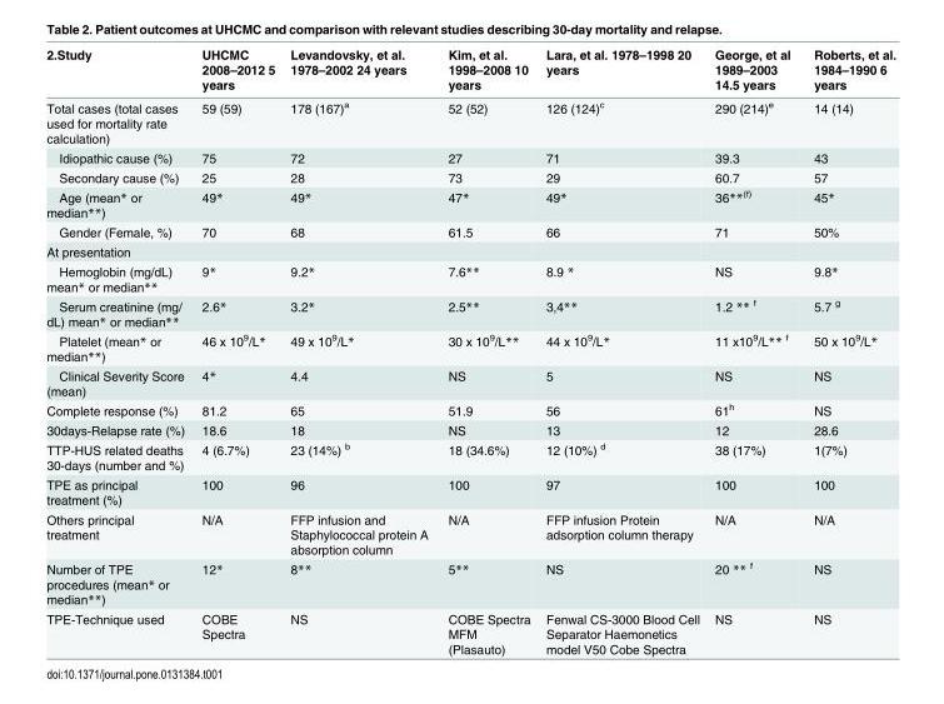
<table><thead><tr><td>2.Study</td><td>UHCMC 2008–2012 5 years</td><td>Levandovsky, et al. 1978–2002 24 years</td><td>Kim, et al. 1998–2008 10 years</td><td>Lara, et al. 1978–1998 20 years</td><td>George, et al 1989–2003 14.5 years</td><td>Roberts, et al. 1984–1990 6 years</td></tr></thead><tbody><tr><td>Total cases (total cases used for mortality rate calculation)</td><td>59 (59)</td><td>178 (167)<sup>a</sup></td><td>52 (52)</td><td>126 (124)<sup>c</sup></td><td>290 (214)<sup>e</sup></td><td>14 (14)</td></tr><tr><td>Idiopathic cause (%)</td><td>75</td><td>72</td><td>27</td><td>71</td><td>39.3</td><td>43</td></tr><tr><td>Secondary cause (%)</td><td>25</td><td>28</td><td>73</td><td>29</td><td>60.7</td><td>57</td></tr><tr><td>Age (mean* or median**)</td><td>49*</td><td>49*</td><td>47*</td><td>49*</td><td>36**<sup>(f)</sup></td><td>45*</td></tr><tr><td>Gender (Female, %)</td><td>70</td><td>68</td><td>61.5</td><td>66</td><td>71</td><td>50%</td></tr><tr><td colspan="7">At presentation</td></tr><tr><td>Hemoglobin (mg/dL) mean* or median**</td><td>9*</td><td>9.2*</td><td>7.6**</td><td>8.9 *</td><td>NS</td><td>9.8*</td></tr><tr><td>Serum creatinine (mg/ dL) mean* or median**</td><td>2.6*</td><td>3.2*</td><td>2.5**</td><td>3,4**</td><td>1.2 ** <sup>f</sup></td><td>5.7 <sup>g</sup></td></tr><tr><td>Platelet (mean* or median**)</td><td>46 x 10<sup>9</sup>/L*</td><td>49 x 10<sup>9</sup>/L*</td><td>30 x 10<sup>9</sup>/L**</td><td>44 x 10<sup>9</sup>/L*</td><td>11 x10<sup>9</sup>/L** <sup>f</sup></td><td>50 x 10<sup>9</sup>/L*</td></tr><tr><td>Clinical Severity Score (mean)</td><td>4*</td><td>4.4</td><td>NS</td><td>5</td><td>NS</td><td>NS</td></tr><tr><td>Complete response (%)</td><td>81.2</td><td>65</td><td>51.9</td><td>56</td><td>61<sup>h</sup></td><td>NS</td></tr><tr><td>30days-Relapse rate (%)</td><td>18.6</td><td>18</td><td>NS</td><td>13</td><td>12</td><td>28.6</td></tr><tr><td>TTP-HUS related deaths 30-days (number and %)</td><td>4 (6.7%)</td><td>23 (14%) <sup>b</sup></td><td>18 (34.6%)</td><td>12 (10%) <sup>d</sup></td><td>38 (17%)</td><td>1(7%)</td></tr><tr><td>TPE as principal treatment (%)</td><td>100</td><td>96</td><td>100</td><td>97</td><td>100</td><td>100</td></tr><tr><td>Others principal treatment</td><td>N/A</td><td>FFP infusion and Staphylococcal protein A absorption column</td><td>N/A</td><td>FFP infusion Protein adsorption column therapy</td><td>N/A</td><td>N/A</td></tr><tr><td>Number of TPE procedures (mean* or median**)</td><td>12*</td><td>8**</td><td>5**</td><td>NS</td><td>20 ** <sup>f</sup></td><td>NS</td></tr><tr><td>TPE-Technique used</td><td>COBE Spectra</td><td>NS</td><td>COBE Spectra MFM (Plasauto)</td><td>Fenwal CS-3000 Blood Cell Separator Haemonetics model V50 Cobe Spectra</td><td>NS</td><td>NS</td></tr></tbody></table>